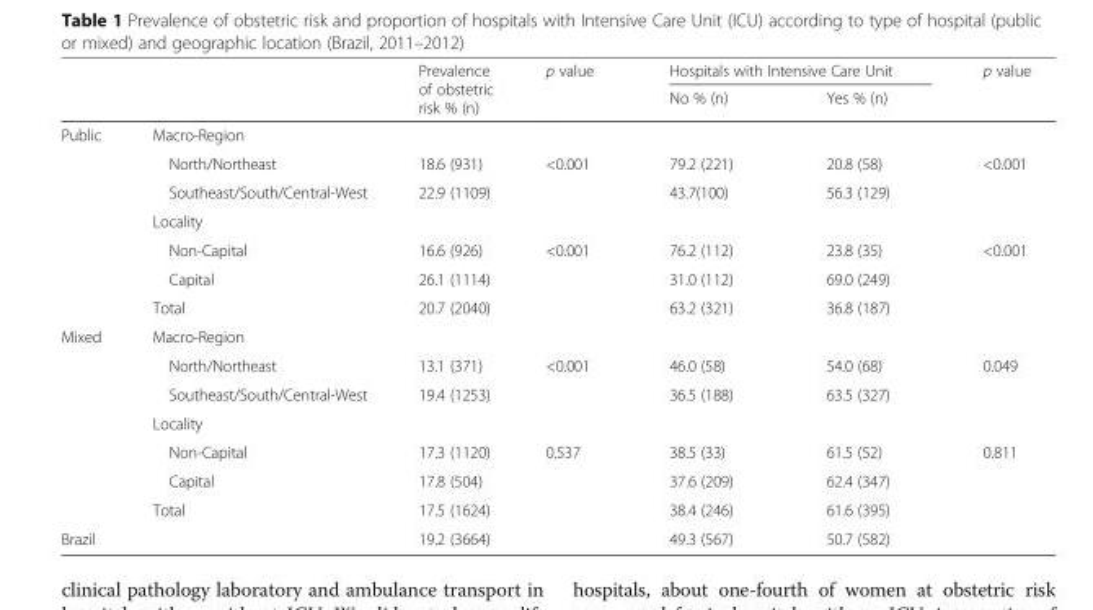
<table><thead><tr><td rowspan="2"></td><td rowspan="2"></td><td rowspan="2">Prevalence of obstetric risk % (n)</td><td rowspan="2">p value</td><td colspan="2">Hospitals with Intensive Care Unit</td><td rowspan="2">p value</td></tr><tr><td>No % (n)</td><td>Yes % (n)</td></tr></thead><tbody><tr><td rowspan="7">Public</td><td colspan="6">Macro-Region</td></tr><tr><td>North/Northeast</td><td>18.6 (931)</td><td>&lt;0.001</td><td>79.2 (221)</td><td>20.8 (58)</td><td>&lt;0.001</td></tr><tr><td>Southeast/South/Central-West</td><td>22.9 (1109)</td><td></td><td>43.7(100)</td><td>56.3 (129)</td><td></td></tr><tr><td colspan="6">Locality</td></tr><tr><td>Non-Capital</td><td>16.6 (926)</td><td>&lt;0.001</td><td>76.2 (112)</td><td>23.8 (35)</td><td>&lt;0.001</td></tr><tr><td>Capital</td><td>26.1 (1114)</td><td></td><td>31.0 (112)</td><td>69.0 (249)</td><td></td></tr><tr><td>Total</td><td>20.7 (2040)</td><td></td><td>63.2 (321)</td><td>36.8 (187)</td><td></td></tr><tr><td rowspan="7">Mixed</td><td colspan="6">Macro-Region</td></tr><tr><td>North/Northeast</td><td>13.1 (371)</td><td>&lt;0.001</td><td>46.0 (58)</td><td>54.0 (68)</td><td>0.049</td></tr><tr><td>Southeast/South/Central-West</td><td>19.4 (1253)</td><td></td><td>36.5 (188)</td><td>63.5 (327)</td><td></td></tr><tr><td colspan="6">Locality</td></tr><tr><td>Non-Capital</td><td>17.3 (1120)</td><td>0.537</td><td>38.5 (33)</td><td>61.5 (52)</td><td>0.811</td></tr><tr><td>Capital</td><td>17.8 (504)</td><td></td><td>37.6 (209)</td><td>62.4 (347)</td><td></td></tr><tr><td>Total</td><td>17.5 (1624)</td><td></td><td>38.4 (246)</td><td>61.6 (395)</td><td></td></tr><tr><td colspan="2">Brazil</td><td>19.2 (3664)</td><td></td><td>49.3 (567)</td><td>50.7 (582)</td><td></td></tr></tbody></table>